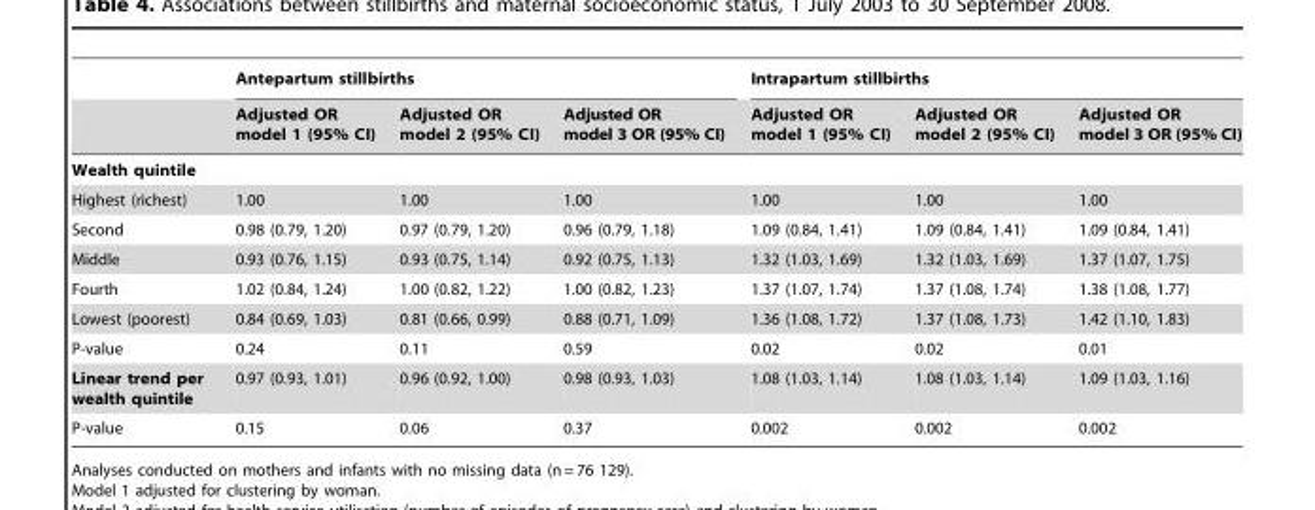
<table><thead><tr><td rowspan="2"></td><td colspan="3">Antepartum stillbirths</td><td colspan="3">Intrapartum stillbirths</td></tr><tr><td>Adjusted OR model 1 (95% CI)</td><td>Adjusted OR model 2 (95% CI)</td><td>Adjusted OR model 3 OR (95% CI)</td><td>Adjusted OR model 1 (95% CI)</td><td>Adjusted OR model 2 (95% CI)</td><td>Adjusted OR model 3 OR (95% CI)</td></tr></thead><tbody><tr><td colspan="7">Wealth quintile</td></tr><tr><td>Highest (richest)</td><td>1.00</td><td>1.00</td><td>1.00</td><td>1.00</td><td>1.00</td><td>1.00</td></tr><tr><td>Second</td><td>0.98 (0.79, 1.20)</td><td>0.97 (0.79, 1.20)</td><td>0.96 (0.79, 1.18)</td><td>1.09 (0.84, 1.41)</td><td>1.09 (0.84, 1.41)</td><td>1.09 (0.84, 1.41)</td></tr><tr><td>Middle</td><td>0.93 (0.76, 1.15)</td><td>0.93 (0.75, 1.14)</td><td>0.92 (0.75, 1.13)</td><td>1.32 (1.03, 1.69)</td><td>1.32 (1.03, 1.69)</td><td>1.37 (1.07, 1.75)</td></tr><tr><td>Fourth</td><td>1.02 (0.84, 1.24)</td><td>1.00 (0.82, 1.22)</td><td>1.00 (0.82, 1.23)</td><td>1.37 (1.07, 1.74)</td><td>1.37 (1.08, 1.74)</td><td>1.38 (1.08, 1.77)</td></tr><tr><td>Lowest (poorest)</td><td>0.84 (0.69, 1.03)</td><td>0.81 (0.66, 0.99)</td><td>0.88 (0.71, 1.09)</td><td>1.36 (1.08, 1.72)</td><td>1.37 (1.08, 1.73)</td><td>1.42 (1.10, 1.83)</td></tr><tr><td>P-value</td><td>0.24</td><td>0.11</td><td>0.59</td><td>0.02</td><td>0.02</td><td>0.01</td></tr><tr><td>Linear trend per wealth quintile</td><td>0.97 (0.93, 1.01)</td><td>0.96 (0.92, 1.00)</td><td>0.98 (0.93, 1.03)</td><td>1.08 (1.03, 1.14)</td><td>1.08 (1.03, 1.14)</td><td>1.09 (1.03, 1.16)</td></tr><tr><td>P-value</td><td>0.15</td><td>0.06</td><td>0.37</td><td>0.002</td><td>0.002</td><td>0.002</td></tr></tbody></table>